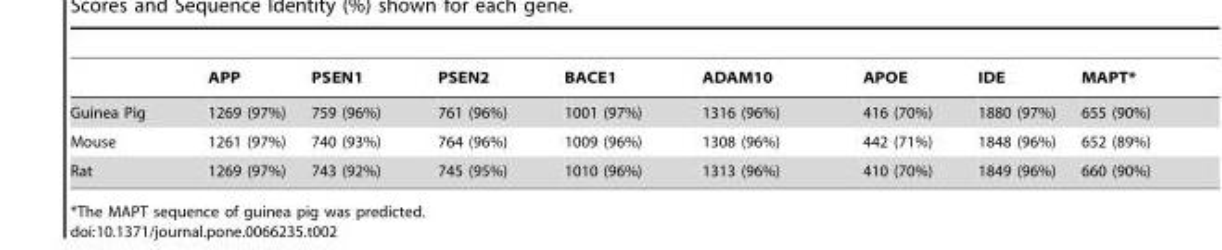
<table><thead><tr><td></td><td>APP</td><td>PSEN1</td><td>PSEN2</td><td>BACE1</td><td>ADAM10</td><td>APOE</td><td>IDE</td><td>MAPT*</td></tr></thead><tbody><tr><td>Guinea Pig</td><td>1269 (97%)</td><td>759 (96%)</td><td>761 (96%)</td><td>1001 (97%)</td><td>1316 (96%)</td><td>416 (70%)</td><td>1880 (97%)</td><td>655 (90%)</td></tr><tr><td>Mouse</td><td>1261 (97%)</td><td>740 (93%)</td><td>764 (96%)</td><td>1009 (96%)</td><td>1308 (96%)</td><td>442 (71%)</td><td>1848 (96%)</td><td>652 (89%)</td></tr><tr><td>Rat</td><td>1269 (97%)</td><td>743 (92%)</td><td>745 (95%)</td><td>1010 (96%)</td><td>1313 (96%)</td><td>410 (70%)</td><td>1849 (96%)</td><td>660 (90%)</td></tr></tbody></table>